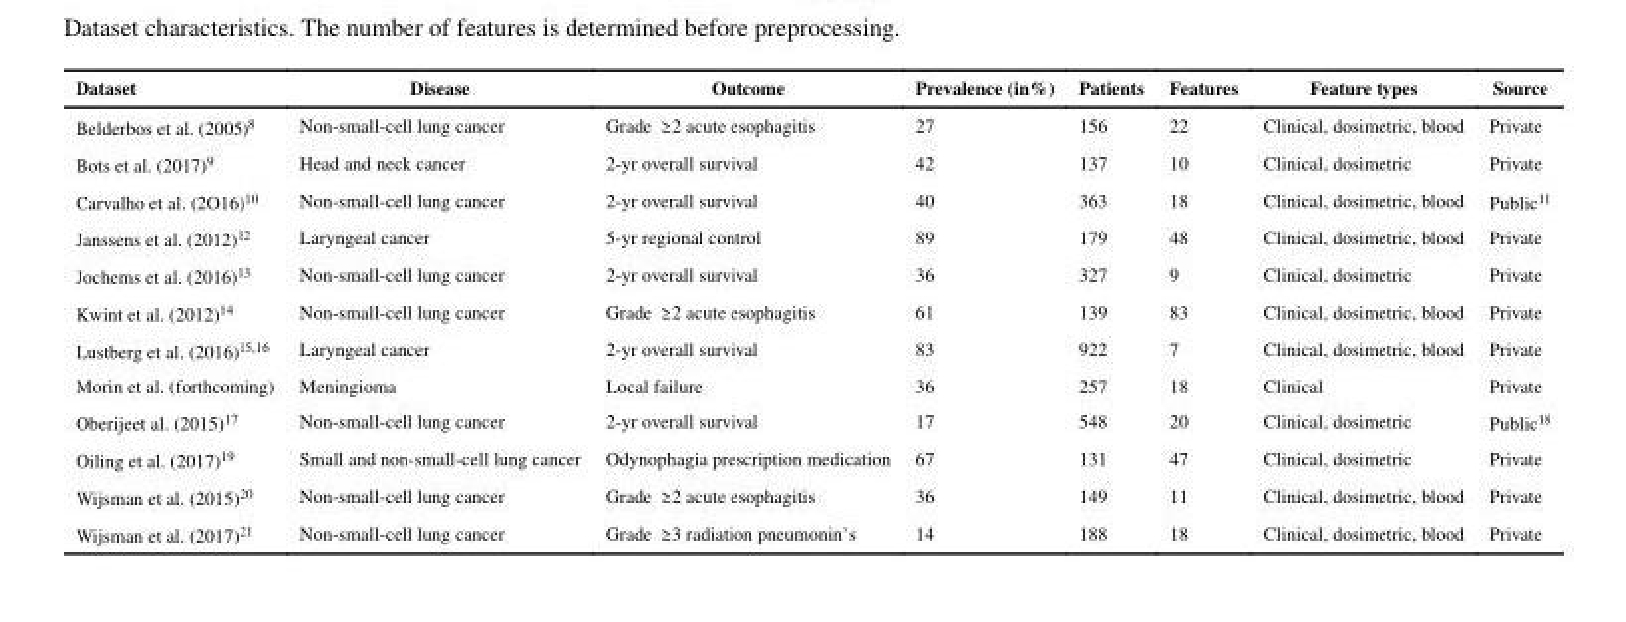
<table><thead><tr><td>Dataset</td><td>Disease</td><td>Outcome</td><td>Prevalence (in%)</td><td>Patients</td><td>Features</td><td>Feature types</td><td>Source</td></tr></thead><tbody><tr><td>Belderbos et al. (2005)<sup>8</sup></td><td>Non-small-cell lung cancer</td><td>Grade ≥ 2 acute esophagitis</td><td>27</td><td>156</td><td>22</td><td>Clinical, dosimetric, blood</td><td>Private</td></tr><tr><td>Bots et al. (2017)<sup>9</sup></td><td>Head and neck cancer</td><td>2-yr overall survival</td><td>42</td><td>137</td><td>10</td><td>Clinical, dosimetric</td><td>Private</td></tr><tr><td>Carvalho et al. (2O16)10</td><td>Non-small-cell lung cancer</td><td>2-yr overall survival</td><td>40</td><td>363</td><td>18</td><td>Clinical, dosimetric, blood</td><td>Public<sup>11</sup></td></tr><tr><td>Janssens et al. (2012)<sup>12</sup></td><td>Laryngeal cancer</td><td>5-yr regional control</td><td>89</td><td>179</td><td>48</td><td>Clinical, dosimetric, blood</td><td>Private</td></tr><tr><td>Jochems et al. (2016)<sup>13</sup></td><td>Non-small-cell lung cancer</td><td>2-yr overall survival</td><td>36</td><td>327</td><td>9</td><td>Clinical, dosimetric</td><td>Private</td></tr><tr><td>Kwint et al. (2012)<sup>14</sup></td><td>Non-small-cell lung cancer</td><td>Grade ≥ 2 acute esophagitis</td><td>61</td><td>139</td><td>83</td><td>Clinical, dosimetric, blood</td><td>Private</td></tr><tr><td>Lustberg et al. (2016)<sup>15</sup>,<sup>16</sup></td><td>Laryngeal cancer</td><td>2-yr overall survival</td><td>83</td><td>922</td><td>7</td><td>Clinical, dosimetric, blood</td><td>Private</td></tr><tr><td>Morin et al. (forthcoming)</td><td>Meningioma</td><td>Local failure</td><td>36</td><td>257</td><td>18</td><td>Clinical</td><td>Private</td></tr><tr><td>Oberijeet al. (2015)<sup>17</sup></td><td>Non-small-cell lung cancer</td><td>2-yr overall survival</td><td>17</td><td>548</td><td>20</td><td>Clinical, dosimetric</td><td>Public<sup>18</sup></td></tr><tr><td>Oiling et al. (2017)19</td><td>Small and non-small-cell lung cancer</td><td>Odynophagia prescription medication</td><td>67</td><td>131</td><td>47</td><td>Clinical, dosimetric</td><td>Private</td></tr><tr><td>Wijsman et al. (2015)<sup>20</sup></td><td>Non-small-cell lung cancer</td><td>Grade ≥ 2 acute esophagitis</td><td>36</td><td>149</td><td>11</td><td>Clinical, dosimetric, blood</td><td>Private</td></tr><tr><td>Wijsman et al. (2017)<sup>21</sup></td><td>Non-small-cell lung cancer</td><td>Grade ≥ 3 radiation pneumonin’s</td><td>14</td><td>188</td><td>18</td><td>Clinical, dosimetric, blood</td><td>Private</td></tr></tbody></table>